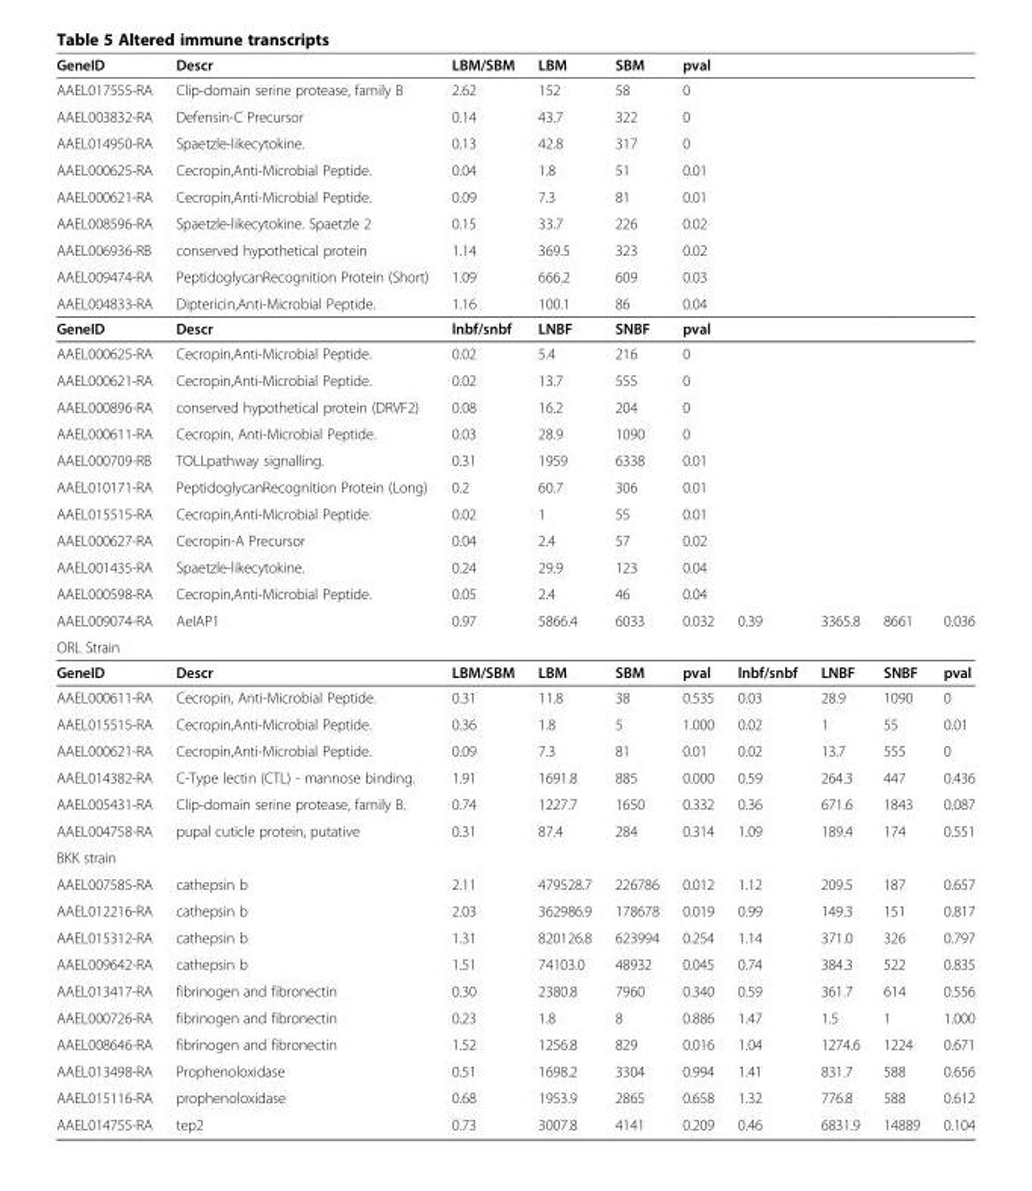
<table><thead><tr><td>GeneID</td><td>Descr</td><td>LBM/SBM</td><td>LBM</td><td>SBM</td><td>pval</td><td></td><td></td><td></td><td></td></tr></thead><tbody><tr><td>AAEL017555-RA</td><td>Clip-domain serine protease, family B</td><td>2.62</td><td>152</td><td>58</td><td>0</td><td></td><td></td><td></td><td></td></tr><tr><td>AAEL003832-RA</td><td>Defensin-C Precursor</td><td>0.14</td><td>43.7</td><td>322</td><td>0</td><td></td><td></td><td></td><td></td></tr><tr><td>AAEL014950-RA</td><td>Spaetzle-likecytokine.</td><td>0.13</td><td>42.8</td><td>317</td><td>0</td><td></td><td></td><td></td><td></td></tr><tr><td>AAEL000625-RA</td><td>Cecropin,Anti-Microbial Peptide.</td><td>0.04</td><td>1.8</td><td>51</td><td>0.01</td><td></td><td></td><td></td><td></td></tr><tr><td>AAEL000621-RA</td><td>Cecropin,Anti-Microbial Peptide.</td><td>0.09</td><td>7.3</td><td>81</td><td>0.01</td><td></td><td></td><td></td><td></td></tr><tr><td>AAEL008596-RA</td><td>Spaetzle-likecytokine. Spaetzle 2</td><td>0.15</td><td>33.7</td><td>226</td><td>0.02</td><td></td><td></td><td></td><td></td></tr><tr><td>AAEL006936-RB</td><td>conserved hypothetical protein</td><td>1.14</td><td>369.5</td><td>323</td><td>0.02</td><td></td><td></td><td></td><td></td></tr><tr><td>AAEL009474-RA</td><td>PeptidoglycanRecognition Protein (Short)</td><td>1.09</td><td>666.2</td><td>609</td><td>0.03</td><td></td><td></td><td></td><td></td></tr><tr><td>AAEL004833-RA</td><td>Diptericin,Anti-Microbial Peptide.</td><td>1.16</td><td>100.1</td><td>86</td><td>0.04</td><td></td><td></td><td></td><td></td></tr><tr><td>GeneID</td><td>Descr</td><td>lnbf/snbf</td><td>LNBF</td><td>SNBF</td><td>pval</td><td></td><td></td><td></td><td></td></tr><tr><td>AAEL000625-RA</td><td>Cecropin,Anti-Microbial Peptide.</td><td>0.02</td><td>5.4</td><td>216</td><td>0</td><td></td><td></td><td></td><td></td></tr><tr><td>AAEL000621-RA</td><td>Cecropin,Anti-Microbial Peptide.</td><td>0.02</td><td>13.7</td><td>555</td><td>0</td><td></td><td></td><td></td><td></td></tr><tr><td>AAEL000896-RA</td><td>conserved hypothetical protein (DRVF2)</td><td>0.08</td><td>16.2</td><td>204</td><td>0</td><td></td><td></td><td></td><td></td></tr><tr><td>AAEL000611-RA</td><td>Cecropin, Anti-Microbial Peptide.</td><td>0.03</td><td>28.9</td><td>1090</td><td>0</td><td></td><td></td><td></td><td></td></tr><tr><td>AAEL000709-RB</td><td>TOLLpathway signalling.</td><td>0.31</td><td>1959</td><td>6338</td><td>0.01</td><td></td><td></td><td></td><td></td></tr><tr><td>AAEL010171-RA</td><td>PeptidoglycanRecognition Protein (Long)</td><td>0.2</td><td>60.7</td><td>306</td><td>0.01</td><td></td><td></td><td></td><td></td></tr><tr><td>AAEL015515-RA</td><td>Cecropin,Anti-Microbial Peptide.</td><td>0.02</td><td>1</td><td>55</td><td>0.01</td><td></td><td></td><td></td><td></td></tr><tr><td>AAEL000627-RA</td><td>Cecropin-A Precursor</td><td>0.04</td><td>2.4</td><td>57</td><td>0.02</td><td></td><td></td><td></td><td></td></tr><tr><td>AAEL001435-RA</td><td>Spaetzle-likecytokine.</td><td>0.24</td><td>29.9</td><td>123</td><td>0.04</td><td></td><td></td><td></td><td></td></tr><tr><td>AAEL000598-RA</td><td>Cecropin,Anti-Microbial Peptide.</td><td>0.05</td><td>2.4</td><td>46</td><td>0.04</td><td></td><td></td><td></td><td></td></tr><tr><td>AAEL009074-RA</td><td>AeIAP1</td><td>0.97</td><td>5866.4</td><td>6033</td><td>0.032</td><td>0.39</td><td>3365.8</td><td>8661</td><td>0.036</td></tr><tr><td colspan="10">ORL Strain</td></tr><tr><td>GeneID</td><td>Descr</td><td>LBM/SBM</td><td>LBM</td><td>SBM</td><td>pval</td><td>lnbf/snbf</td><td>LNBF</td><td>SNBF</td><td>pval</td></tr><tr><td>AAEL000611-RA</td><td>Cecropin, Anti-Microbial Peptide.</td><td>0.31</td><td>11.8</td><td>38</td><td>0.535</td><td>0.03</td><td>28.9</td><td>1090</td><td>0</td></tr><tr><td>AAEL015515-RA</td><td>Cecropin,Anti-Microbial Peptide.</td><td>0.36</td><td>1.8</td><td>5</td><td>1.000</td><td>0.02</td><td>1</td><td>55</td><td>0.01</td></tr><tr><td>AAEL000621-RA</td><td>Cecropin,Anti-Microbial Peptide.</td><td>0.09</td><td>7.3</td><td>81</td><td>0.01</td><td>0.02</td><td>13.7</td><td>555</td><td>0</td></tr><tr><td>AAEL014382-RA</td><td>C-Type lectin (CTL) - mannose binding.</td><td>1.91</td><td>1691.8</td><td>885</td><td>0.000</td><td>0.59</td><td>264.3</td><td>447</td><td>0.436</td></tr><tr><td>AAEL005431-RA</td><td>Clip-domain serine protease, family B.</td><td>0.74</td><td>1227.7</td><td>1650</td><td>0.332</td><td>0.36</td><td>671.6</td><td>1843</td><td>0.087</td></tr><tr><td>AAEL004758-RA</td><td>pupal cuticle protein, putative</td><td>0.31</td><td>87.4</td><td>284</td><td>0.314</td><td>1.09</td><td>189.4</td><td>174</td><td>0.551</td></tr><tr><td colspan="10">BKK strain</td></tr><tr><td>AAEL007585-RA</td><td>cathepsin b</td><td>2.11</td><td>479528.7</td><td>226786</td><td>0.012</td><td>1.12</td><td>209.5</td><td>187</td><td>0.657</td></tr><tr><td>AAEL012216-RA</td><td>cathepsin b</td><td>2.03</td><td>362986.9</td><td>178678</td><td>0.019</td><td>0.99</td><td>149.3</td><td>151</td><td>0.817</td></tr><tr><td>AAEL015312-RA</td><td>cathepsin b</td><td>1.31</td><td>820126.8</td><td>623994</td><td>0.254</td><td>1.14</td><td>371.0</td><td>326</td><td>0.797</td></tr><tr><td>AAEL009642-RA</td><td>cathepsin b</td><td>1.51</td><td>74103.0</td><td>48932</td><td>0.045</td><td>0.74</td><td>384.3</td><td>522</td><td>0.835</td></tr><tr><td>AAEL013417-RA</td><td>fibrinogen and fibronectin</td><td>0.30</td><td>2380.8</td><td>7960</td><td>0.340</td><td>0.59</td><td>361.7</td><td>614</td><td>0.556</td></tr><tr><td>AAEL000726-RA</td><td>fibrinogen and fibronectin</td><td>0.23</td><td>1.8</td><td>8</td><td>0.886</td><td>1.47</td><td>1.5</td><td>1</td><td>1.000</td></tr><tr><td>AAEL008646-RA</td><td>fibrinogen and fibronectin</td><td>1.52</td><td>1256.8</td><td>829</td><td>0.016</td><td>1.04</td><td>1274.6</td><td>1224</td><td>0.671</td></tr><tr><td>AAEL013498-RA</td><td>Prophenoloxidase</td><td>0.51</td><td>1698.2</td><td>3304</td><td>0.994</td><td>1.41</td><td>831.7</td><td>588</td><td>0.656</td></tr><tr><td>AAEL015116-RA</td><td>prophenoloxidase</td><td>0.68</td><td>1953.9</td><td>2865</td><td>0.658</td><td>1.32</td><td>776.8</td><td>588</td><td>0.612</td></tr><tr><td>AAEL014755-RA</td><td>tep2</td><td>0.73</td><td>3007.8</td><td>4141</td><td>0.209</td><td>0.46</td><td>6831.9</td><td>14889</td><td>0.104</td></tr></tbody></table>